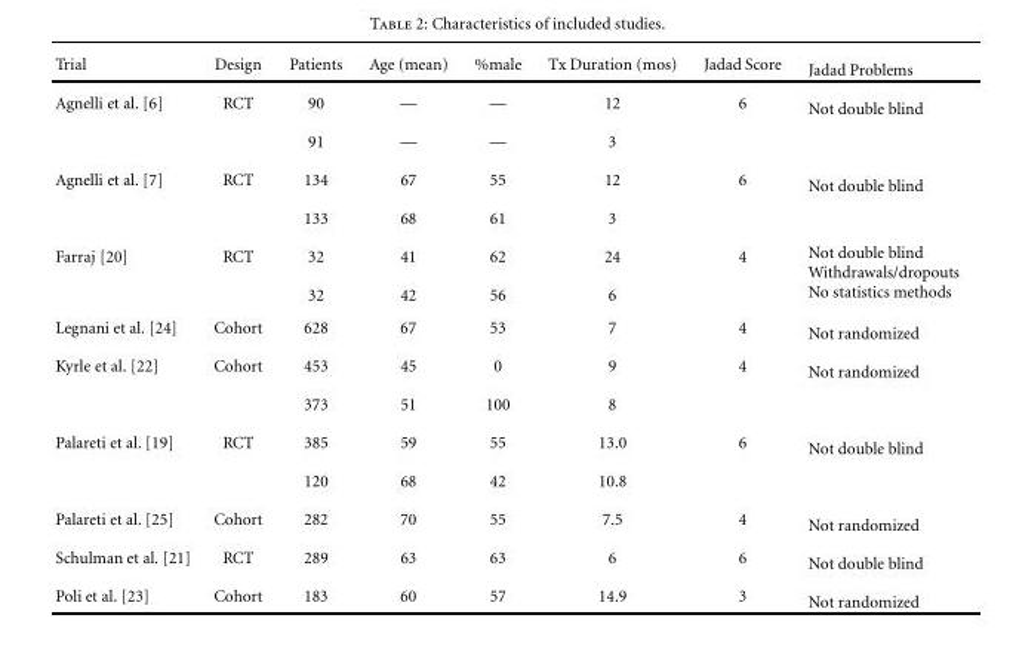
<table><thead><tr><td>Trial</td><td>Design</td><td>Patients</td><td>Age (mean)</td><td>%male</td><td>Tx Duration (mos)</td><td>Jadad Score</td><td>Jadad Problems</td></tr></thead><tbody><tr><td rowspan="2">Agnelli et al. [6]</td><td>RCT</td><td>90</td><td>—</td><td>—</td><td>12</td><td>6</td><td>Not double blind</td></tr><tr><td></td><td>91</td><td>—</td><td>—</td><td>3</td><td></td><td></td></tr><tr><td rowspan="2">Agnelli et al. [7]</td><td>RCT</td><td>134</td><td>67</td><td>55</td><td>12</td><td>6</td><td>Not double blind</td></tr><tr><td></td><td>133</td><td>68</td><td>61</td><td>3</td><td></td><td></td></tr><tr><td rowspan="2">Farraj [20]</td><td>RCT</td><td>32</td><td>41</td><td>62</td><td>24</td><td>4</td><td rowspan="2">Not double blind Withdrawals/dropouts No statistics methods</td></tr><tr><td></td><td>32</td><td>42</td><td>56</td><td>6</td><td></td></tr><tr><td>Legnani et al. [24]</td><td>Cohort</td><td>628</td><td>67</td><td>53</td><td>7</td><td>4</td><td>Not randomized</td></tr><tr><td rowspan="2">Kyrle et al. [22]</td><td>Cohort</td><td>453</td><td>45</td><td>0</td><td>9</td><td>4</td><td>Not randomized</td></tr><tr><td></td><td>373</td><td>51</td><td>100</td><td>8</td><td></td><td></td></tr><tr><td rowspan="2">Palareti et al. [19]</td><td>RCT</td><td>385</td><td>59</td><td>55</td><td>13.0</td><td>6</td><td>Not double blind</td></tr><tr><td></td><td>120</td><td>68</td><td>42</td><td>10.8</td><td></td><td></td></tr><tr><td>Palareti et al. [25]</td><td>Cohort</td><td>282</td><td>70</td><td>55</td><td>7.5</td><td>4</td><td>Not randomized</td></tr><tr><td>Schulman et al. [21]</td><td>RCT</td><td>289</td><td>63</td><td>63</td><td>6</td><td>6</td><td>Not double blind</td></tr><tr><td>Poli et al. [23]</td><td>Cohort</td><td>183</td><td>60</td><td>57</td><td>14.9</td><td>3</td><td>Not randomized</td></tr></tbody></table>